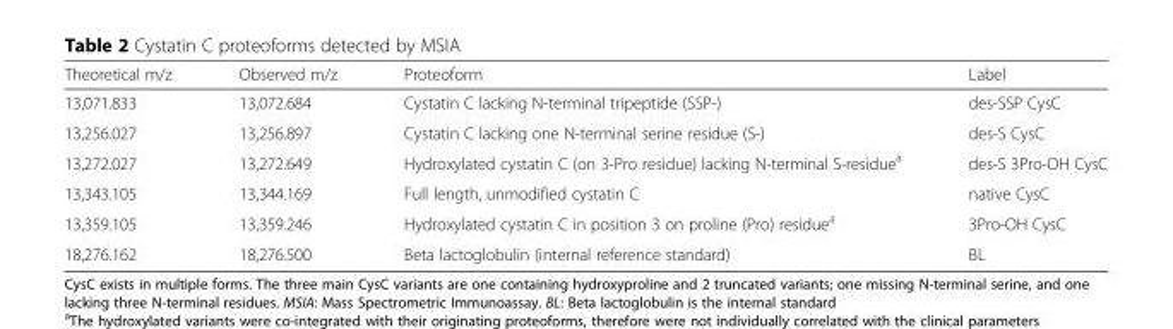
<table><thead><tr><td>Theoretical m/z</td><td>Observed m/z</td><td>Proteoform</td><td>Label</td></tr></thead><tbody><tr><td>13,071.833</td><td>13,072.684</td><td>Cystatin C lacking N-terminal tripeptide (SSP-)</td><td>des-SSP CysC</td></tr><tr><td>13,256.027</td><td>13,256.897</td><td>Cystatin C lacking one N-terminal serine residue (S-)</td><td>des-S CysC</td></tr><tr><td>13,272.027</td><td>13,272.649</td><td>Hydroxylated cystatin C (on 3-Pro residue) lacking N-terminal S-residue<sup>a</sup></td><td>des-S 3Pro-OH CysC</td></tr><tr><td>13,343.105</td><td>13,344.169</td><td>Full length, unmodified cystatin C</td><td>native CysC</td></tr><tr><td>13,359.105</td><td>13,359.246</td><td>Hydroxylated cystatin C in position 3 on proline (Pro) residue<sup>a</sup></td><td>3Pro-OH CysC</td></tr><tr><td>18,276.162</td><td>18,276.500</td><td>Beta lactoglobulin (internal reference standard)</td><td>BL</td></tr></tbody></table>